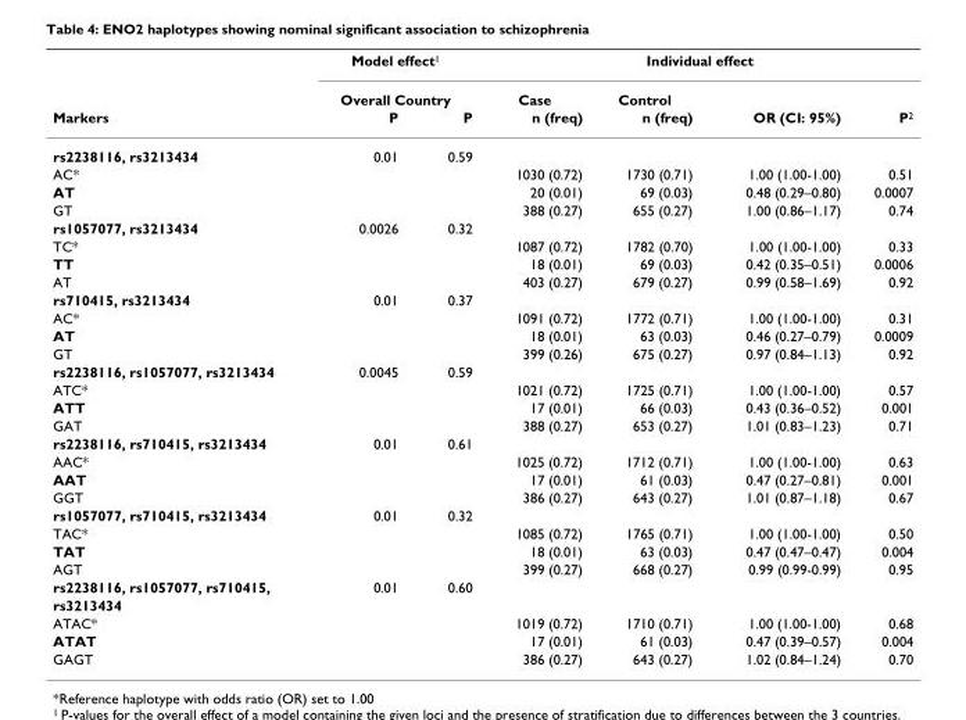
<table><thead><tr><td rowspan="3">Markers</td><td rowspan="2" colspan="2">Model effect<sup>1</sup> Overall Country</td><td colspan="4">Individual effect</td></tr><tr><td rowspan="2">Case n (freq)</td><td rowspan="2">Control n (freq)</td><td rowspan="2">OR (CI: 95%)</td><td rowspan="2">P<sup>2</sup></td></tr><tr><td>P</td><td>P</td></tr></thead><tbody><tr><td>rs2238116, rs3213434</td><td>0.01</td><td>0.59</td><td></td><td></td><td></td><td></td></tr><tr><td>AC*</td><td></td><td></td><td>1030 (0.72)</td><td>1730 (0.71)</td><td>1.00 (1.00-1.00)</td><td>0.51</td></tr><tr><td>AT</td><td></td><td></td><td>20 (0.01)</td><td>69 (0.03)</td><td>0.48 (0.29–0.80)</td><td>0.0007</td></tr><tr><td>GT</td><td></td><td></td><td>388 (0.27)</td><td>655 (0.27)</td><td>1.00 (0.86–1.17)</td><td>0.74</td></tr><tr><td>rs1057077, rs3213434</td><td>0.0026</td><td>0.32</td><td></td><td></td><td></td><td></td></tr><tr><td>TC*</td><td></td><td></td><td>1087 (0.72)</td><td>1782 (0.70)</td><td>1.00 (1.00-1.00)</td><td>0.33</td></tr><tr><td>TT</td><td></td><td></td><td>18 (0.01)</td><td>69 (0.03)</td><td>0.42 (0.35–0.51)</td><td>0.0006</td></tr><tr><td>AT</td><td></td><td></td><td>403 (0.27)</td><td>679 (0.27)</td><td>0.99 (0.58–1.69)</td><td>0.92</td></tr><tr><td>rs710415, rs3213434</td><td>0.01</td><td>0.37</td><td></td><td></td><td></td><td></td></tr><tr><td>AC*</td><td></td><td></td><td>1091 (0.72)</td><td>1772 (0.71)</td><td>1.00 (1.00-1.00)</td><td>0.31</td></tr><tr><td>AT</td><td></td><td></td><td>18 (0.01)</td><td>63 (0.03)</td><td>0.46 (0.27–0.79)</td><td>0.0009</td></tr><tr><td>GT</td><td></td><td></td><td>399 (0.26)</td><td>675 (0.27)</td><td>0.97 (0.84–1.13)</td><td>0.92</td></tr><tr><td>rs2238116, rs1057077, rs3213434</td><td>0.0045</td><td>0.59</td><td></td><td></td><td></td><td></td></tr><tr><td>ATC*</td><td></td><td></td><td>1021 (0.72)</td><td>1725 (0.71)</td><td>1.00 (1.00-1.00)</td><td>0.57</td></tr><tr><td>ATT</td><td></td><td></td><td>17 (0.01)</td><td>66 (0.03)</td><td>0.43 (0.36–0.52)</td><td>0.001</td></tr><tr><td>GAT</td><td></td><td></td><td>388 (0.27)</td><td>653 (0.27)</td><td>1.01 (0.83–1.23)</td><td>0.71</td></tr><tr><td>rs2238116, rs710415, rs3213434</td><td>0.01</td><td>0.61</td><td></td><td></td><td></td><td></td></tr><tr><td>AAC*</td><td></td><td></td><td>1025 (0.72)</td><td>1712 (0.71)</td><td>1.00 (1.00-1.00)</td><td>0.63</td></tr><tr><td>AAT</td><td></td><td></td><td>17 (0.01)</td><td>61 (0.03)</td><td>0.47 (0.27–0.81)</td><td>0.001</td></tr><tr><td>GGT</td><td></td><td></td><td>386 (0.27)</td><td>643 (0.27)</td><td>1.01 (0.87–1.18)</td><td>0.67</td></tr><tr><td>rs1057077, rs710415, rs3213434</td><td>0.01</td><td>0.32</td><td></td><td></td><td></td><td></td></tr><tr><td>TAC*</td><td></td><td></td><td>1085 (0.72)</td><td>1765 (0.71)</td><td>1.00 (1.00-1.00)</td><td>0.50</td></tr><tr><td>TAT</td><td></td><td></td><td>18 (0.01)</td><td>63 (0.03)</td><td>0.47 (0.47–0.47)</td><td>0.004</td></tr><tr><td>AGT</td><td></td><td></td><td>399 (0.27)</td><td>668 (0.27)</td><td>0.99 (0.99-0.99)</td><td>0.95</td></tr><tr><td>rs2238116, rs1057077, rs710415,</td><td>0.01</td><td>0.60</td><td></td><td></td><td></td><td></td></tr><tr><td colspan="7">rs3213434</td></tr><tr><td>ATAC*</td><td></td><td></td><td>1019 (0.72)</td><td>1710 (0.71)</td><td>1.00 (1.00-1.00)</td><td>0.68</td></tr><tr><td>ATAT</td><td></td><td></td><td>17 (0.01)</td><td>61 (0.03)</td><td>0.47 (0.39–0.57)</td><td>0.004</td></tr><tr><td>GAGT</td><td></td><td></td><td>386 (0.27)</td><td>643 (0.27)</td><td>1.02 (0.84–1.24)</td><td>0.70</td></tr></tbody></table>